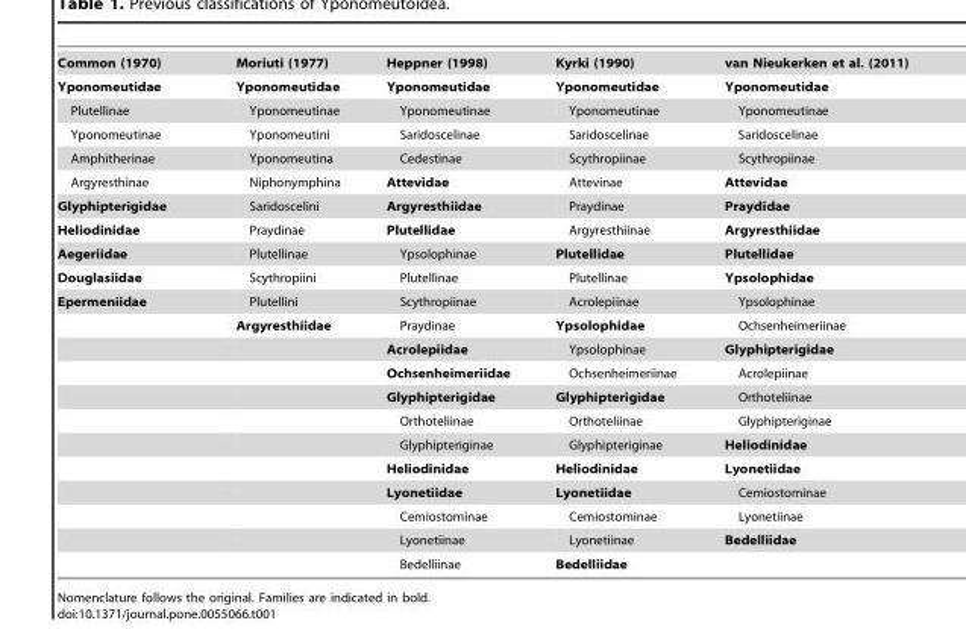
<table><tbody><tr><td>Common (1970)</td><td>Moriuti (1977)</td><td>Heppner (1998)</td><td>Kyrki (1990)</td><td>van Nieukerken et al. (2011)</td></tr><tr><td>Yponomeutidae</td><td>Yponomeutidae</td><td>Yponomeutidae</td><td>Yponomeutidae</td><td>Yponomeutidae</td></tr><tr><td>Plutellinae</td><td>Yponomeutinae</td><td>Yponomeutinae</td><td>Yponomeutinae</td><td>Yponomeutinae</td></tr><tr><td>Yponomeutinae</td><td>Yponomeutini</td><td>Saridoscelinae</td><td>Saridoscelinae</td><td>Saridoscelinae</td></tr><tr><td>Amphitherinae</td><td>Yponomeutina</td><td>Cedestinae</td><td>Scythropiinae</td><td>Scythropiinae</td></tr><tr><td>Argyresthinae</td><td>Niphonymphina</td><td>Attevidae</td><td>Attevinae</td><td>Attevidae</td></tr><tr><td>Glyphipterigidae</td><td>Saridoscelini</td><td>Argyresthiidae</td><td>Praydinae</td><td>Praydidae</td></tr><tr><td>Heliodinidae</td><td>Praydinae</td><td>Plutellidae</td><td>Argyresthiinae</td><td>Argyresthiidae</td></tr><tr><td>Aegeriidae</td><td>Plutellinae</td><td>Ypsolophinae</td><td>Plutellidae</td><td>Plutellidae</td></tr><tr><td>Douglasiidae</td><td>Scythropiini</td><td>Plutellinae</td><td>Plutellinae</td><td>Ypsolophidae</td></tr><tr><td rowspan="12">Epermeniidae</td><td>Plutellini</td><td>Scythropiinae</td><td>Acrolepiinae</td><td>Ypsolophinae</td></tr><tr><td>Argyresthiidae</td><td>Praydinae</td><td>Ypsolophidae</td><td>Ochsenheimeriinae</td></tr><tr><td></td><td>Acrolepiidae</td><td>Ypsolophinae</td><td>Glyphipterigidae</td></tr><tr><td></td><td>Ochsenheimeriidae</td><td>Ochsenheimeriinae</td><td>Acrolepiinae</td></tr><tr><td></td><td>Glyphipterigidae</td><td>Glyphipterigidae</td><td>Orthoteliinae</td></tr><tr><td></td><td>Orthoteliinae</td><td>Orthoteliinae</td><td>Glyphipteriginae</td></tr><tr><td></td><td>Glyphipteriginae</td><td>Glyphipteriginae</td><td>Heliodinidae</td></tr><tr><td></td><td>Heliodinidae</td><td>Heliodinidae</td><td>Lyonetiidae</td></tr><tr><td></td><td>Lyonetiidae</td><td>Lyonetiidae</td><td>Cemiostominae</td></tr><tr><td></td><td>Cemiostominae</td><td>Cemiostominae</td><td>Lyonetiinae</td></tr><tr><td></td><td>Lyonetiinae</td><td>Lyonetiinae</td><td>Bedelliidae</td></tr><tr><td></td><td>Bedelliinae</td><td>Bedelliidae</td><td></td></tr></tbody></table>